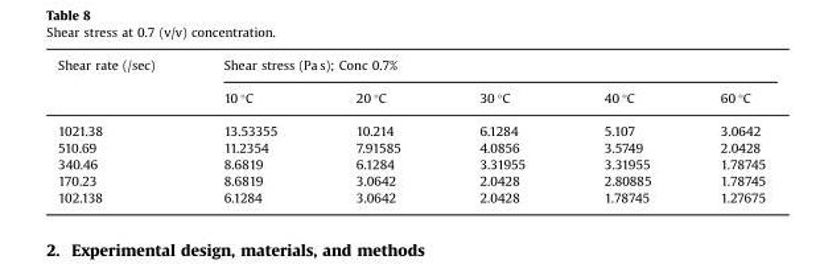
<table><thead><tr><td rowspan="2">Shear rate (/sec)</td><td colspan="5">Shear stress (Pa s); Conc 0.7%</td></tr><tr><td>10 °C</td><td>20 °C</td><td>30 °C</td><td>40 °C</td><td>60 °C</td></tr></thead><tbody><tr><td>1021.38</td><td>13.53355</td><td>10.214</td><td>6.1284</td><td>5.107</td><td>3.0642</td></tr><tr><td>510.69</td><td>11.2354</td><td>7.91585</td><td>4.0856</td><td>3.5749</td><td>2.0428</td></tr><tr><td>340.46</td><td>8.6819</td><td>6.1284</td><td>3.31955</td><td>3.31955</td><td>1.78745</td></tr><tr><td>170.23</td><td>8.6819</td><td>3.0642</td><td>2.0428</td><td>2.80885</td><td>1.78745</td></tr><tr><td>102.138</td><td>6.1284</td><td>3.0642</td><td>2.0428</td><td>1.78745</td><td>1.27675</td></tr></tbody></table>